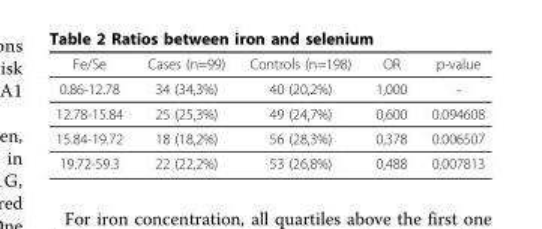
<table><thead><tr><td>Fe/Se</td><td>Cases (n=99)</td><td>Controls (n=198)</td><td>OR</td><td>p-value</td></tr></thead><tbody><tr><td>0.86-12.78</td><td>34 (34,3%)</td><td>40 (20,2%)</td><td>1,000</td><td>-</td></tr><tr><td>12.78-15.84</td><td>25 (25,3%)</td><td>49 (24,7%)</td><td>0,600</td><td>0.094608</td></tr><tr><td>15.84-19.72</td><td>18 (18,2%)</td><td>56 (28,3%)</td><td>0,378</td><td>0.006507</td></tr><tr><td>19.72-59.3</td><td>22 (22,2%)</td><td>53 (26,8%)</td><td>0,488</td><td>0.007813</td></tr></tbody></table>